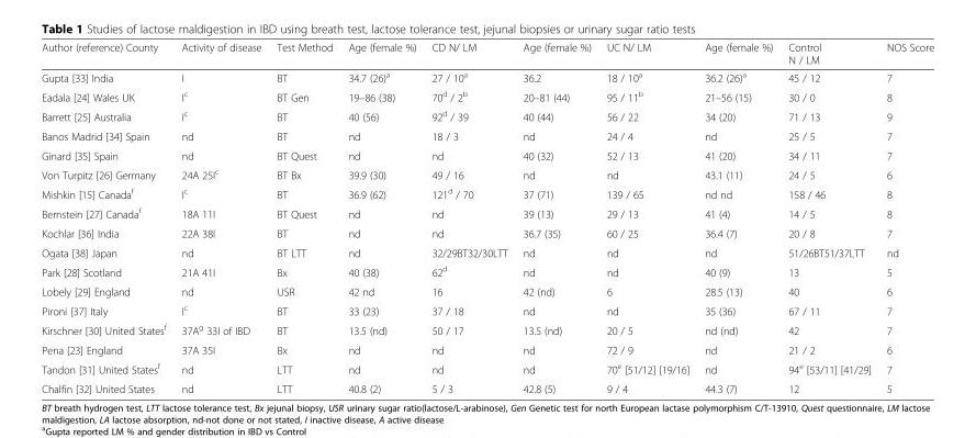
<table><thead><tr><td>Author (reference) County</td><td>Activity of disease</td><td>Test Method</td><td>Age (female %)</td><td>CD N/ LM</td><td>Age (female %)</td><td>UC N/ LM</td><td>Age (female %)</td><td>Control N / LM</td><td>NOS Score</td></tr></thead><tbody><tr><td>Gupta [33] India</td><td>I</td><td>BT</td><td>34.7 (26)<sup>a</sup></td><td>27 / 10<sup>a</sup></td><td>36.2</td><td>18 / 10<sup>a</sup></td><td>36.2 (26)<sup>a</sup></td><td>45 / 12</td><td>7</td></tr><tr><td>Eadala [24] Wales UK</td><td>I<sup>c</sup></td><td>BT Gen</td><td>19–86 (38)</td><td>70<sup>d</sup> / 2<sup>b</sup></td><td>20–81 (44)</td><td>95 / 11<sup>b</sup></td><td>21–56 (15)</td><td>30 / 0</td><td>8</td></tr><tr><td>Barrett [25] Australia</td><td>I<sup>c</sup></td><td>BT</td><td>40 (56)</td><td>92<sup>d</sup> / 39</td><td>40 (44)</td><td>56 / 22</td><td>34 (20)</td><td>71 / 13</td><td>9</td></tr><tr><td>Banos Madrid [34] Spain</td><td>nd</td><td>BT</td><td>nd</td><td>18 / 3</td><td>nd</td><td>24 / 4</td><td>nd</td><td>25 / 5</td><td>7</td></tr><tr><td>Ginard [35] Spain</td><td>nd</td><td>BT Quest</td><td>nd</td><td>nd</td><td>40 (32)</td><td>52 / 13</td><td>41 (20)</td><td>34 / 11</td><td>7</td></tr><tr><td>Von Turpitz [26] Germany</td><td>24A 25I<sup>c</sup></td><td>BT Bx</td><td>39.9 (30)</td><td>49 / 16</td><td>nd</td><td>nd</td><td>43.1 (11)</td><td>24 / 5</td><td>6</td></tr><tr><td>Mishkin [15] Canada<sup>f</sup></td><td>I<sup>c</sup></td><td>BT</td><td>36.9 (62)</td><td>121<sup>d</sup> / 70</td><td>37 (71)</td><td>139 / 65</td><td>nd nd</td><td>158 / 46</td><td>8</td></tr><tr><td>Bernstein [27] Canada<sup>f</sup></td><td>18A 11I</td><td>BT Quest</td><td>nd</td><td>nd</td><td>39 (13)</td><td>29 / 13</td><td>41 (4)</td><td>14 / 5</td><td>8</td></tr><tr><td>Kochlar [36] India</td><td>22A 38I</td><td>BT</td><td>nd</td><td>nd</td><td>36.7 (35)</td><td>60 / 25</td><td>36.4 (7)</td><td>20 / 8</td><td>7</td></tr><tr><td>Ogata [38] Japan</td><td>nd</td><td>BT LTT</td><td>nd</td><td>32/29BT32/30LTT</td><td>nd</td><td>nd</td><td>nd</td><td>51/26BT51/37LTT</td><td>nd</td></tr><tr><td>Park [28] Scotland</td><td>21A 41I</td><td>Bx</td><td>40 (38)</td><td>62<sup>d</sup></td><td>nd</td><td>nd</td><td>40 (9)</td><td>13</td><td>5</td></tr><tr><td>Lobely [29] England</td><td>nd</td><td>USR</td><td>42 nd</td><td>16</td><td>42 (nd)</td><td>6</td><td>28.5 (13)</td><td>40</td><td>6</td></tr><tr><td>Pironi [37] Italy</td><td>I<sup>c</sup></td><td>BT</td><td>33 (23)</td><td>37 / 18</td><td>nd</td><td>nd</td><td>35 (36)</td><td>67 / 11</td><td>7</td></tr><tr><td>Kirschner [30] United States<sup>f</sup></td><td>37A<sup>g</sup> 33I of IBD</td><td>BT</td><td>13.5 (nd)</td><td>50 / 17</td><td>13.5 (nd)</td><td>20 / 5</td><td>nd (nd)</td><td>42</td><td>7</td></tr><tr><td>Pena [23] England</td><td>37A 35I</td><td>Bx</td><td>nd</td><td>nd</td><td>nd</td><td>72 / 9</td><td>nd</td><td>21 / 2</td><td>6</td></tr><tr><td>Tandon [31] United States<sup>f</sup></td><td>nd</td><td>LTT</td><td>nd</td><td>nd</td><td>nd</td><td>70<sup>e</sup> [51/12] [19/16]</td><td>nd</td><td>94<sup>e</sup> [53/11] [41/29]</td><td>7</td></tr><tr><td>Chalfin [32] United States</td><td>nd</td><td>LTT</td><td>40.8 (2)</td><td>5 / 3</td><td>42.8 (5)</td><td>9 / 4</td><td>44.3 (7)</td><td>12</td><td>5</td></tr></tbody></table>